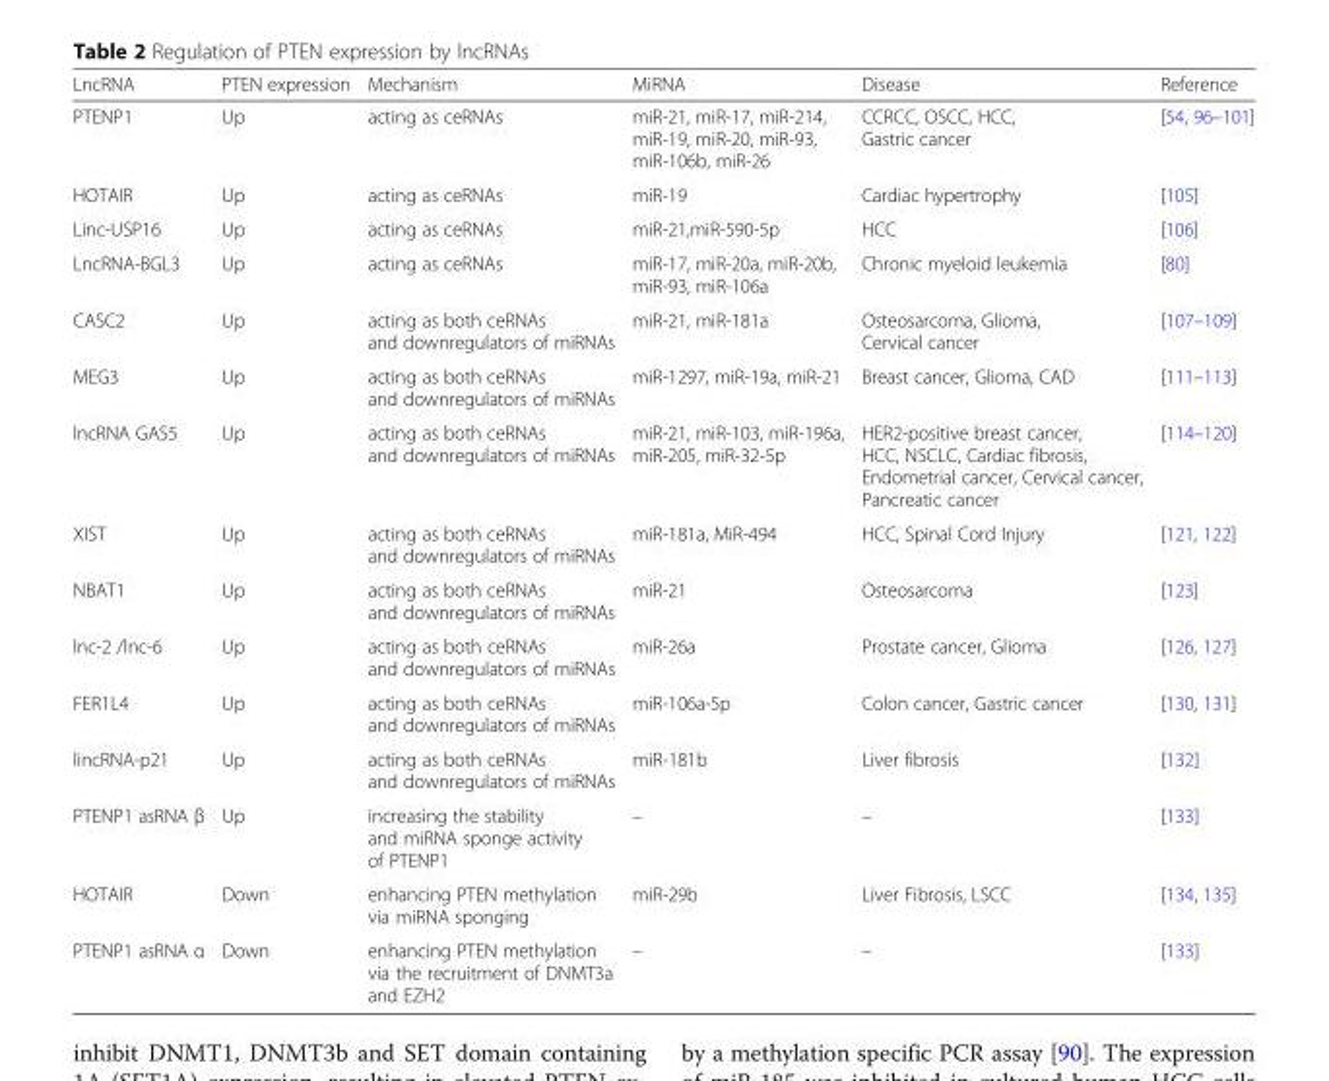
<table><thead><tr><td>LncRNA</td><td>PTEN expression</td><td>Mechanism</td><td>MiRNA</td><td>Disease</td><td>Reference</td></tr></thead><tbody><tr><td>PTENP1</td><td>Up</td><td>acting as ceRNAs</td><td>miR-21, miR-17, miR-214, miR-19, miR-20, miR-93, miR-106b, miR-26</td><td>CCRCC, OSCC, HCC, Gastric cancer</td><td>[54, 96–101]</td></tr><tr><td>HOTAIR</td><td>Up</td><td>acting as ceRNAs</td><td>miR-19</td><td>Cardiac hypertrophy</td><td>[105]</td></tr><tr><td>Linc-USP16</td><td>Up</td><td>acting as ceRNAs</td><td>miR-21,miR-590-5p</td><td>HCC</td><td>[106]</td></tr><tr><td>LncRNA-BGL3</td><td>Up</td><td>acting as ceRNAs</td><td>miR-17, miR-20a, miR-20b, miR-93, miR-106a</td><td>Chronic myeloid leukemia</td><td>[80]</td></tr><tr><td>CASC2</td><td>Up</td><td>acting as both ceRNAs and downregulators of miRNAs</td><td>miR-21, miR-181a</td><td>Osteosarcoma, Glioma, Cervical cancer</td><td>[107–109]</td></tr><tr><td>MEG3</td><td>Up</td><td>acting as both ceRNAs and downregulators of miRNAs</td><td>miR-1297, miR-19a, miR-21</td><td>Breast cancer, Glioma, CAD</td><td>[111–113]</td></tr><tr><td>lncRNA GAS5</td><td>Up</td><td>acting as both ceRNAs and downregulators of miRNAs</td><td>miR-21, miR-103, miR-196a, miR-205, miR-32-5p</td><td>HER2-positive breast cancer, HCC, NSCLC, Cardiac fibrosis, Endometrial cancer, Cervical cancer, Pancreatic cancer</td><td>[114–120]</td></tr><tr><td>XIST</td><td>Up</td><td>acting as both ceRNAs and downregulators of miRNAs</td><td>miR-181a, MiR-494</td><td>HCC, Spinal Cord Injury</td><td>[121, 122]</td></tr><tr><td>NBAT1</td><td>Up</td><td>acting as both ceRNAs and downregulators of miRNAs</td><td>miR-21</td><td>Osteosarcoma</td><td>[123]</td></tr><tr><td>lnc-2 /lnc-6</td><td>Up</td><td>acting as both ceRNAs and downregulators of miRNAs</td><td>miR-26a</td><td>Prostate cancer, Glioma</td><td>[126, 127]</td></tr><tr><td>FER1L4</td><td>Up</td><td>acting as both ceRNAs and downregulators of miRNAs</td><td>miR-106a-5p</td><td>Colon cancer, Gastric cancer</td><td>[130, 131]</td></tr><tr><td>lincRNA-p21</td><td>Up</td><td>acting as both ceRNAs and downregulators of miRNAs</td><td>miR-181b</td><td>Liver fibrosis</td><td>[132]</td></tr><tr><td>PTENP1 asRNA β</td><td>Up</td><td>increasing the stability and miRNA sponge activity of PTENP1</td><td>–</td><td>–</td><td>[133]</td></tr><tr><td>HOTAIR</td><td>Down</td><td>enhancing PTEN methylation via miRNA sponging</td><td>miR-29b</td><td>Liver Fibrosis, LSCC</td><td>[134, 135]</td></tr><tr><td>PTENP1 asRNA α</td><td>Down</td><td>enhancing PTEN methylation via the recruitment of DNMT3a and EZH2</td><td>–</td><td>–</td><td>[133]</td></tr></tbody></table>